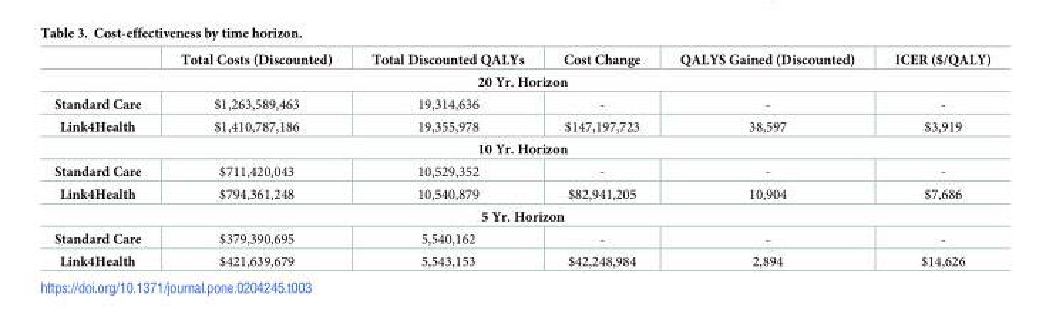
<table><thead><tr><td></td><td>Total Costs (Discounted)</td><td>Total Discounted QALYs</td><td>Cost Change</td><td>QALYS Gained (Discounted)</td><td>ICER ($/QALY)</td></tr></thead><tbody><tr><td colspan="6">20 Yr. Horizon</td></tr><tr><td>Standard Care</td><td>$1,263,589,463</td><td>19,314,636</td><td>-</td><td>-</td><td>-</td></tr><tr><td>Link4Health</td><td>$1,410,787,186</td><td>19,355,978</td><td>$147,197,723</td><td>38,597</td><td>$3,919</td></tr><tr><td colspan="6">10 Yr. Horizon</td></tr><tr><td>Standard Care</td><td>$711,420,043</td><td>10,529,352</td><td>-</td><td>-</td><td>-</td></tr><tr><td>Link4Health</td><td>$794,361,248</td><td>10,540,879</td><td>$82,941,205</td><td>10,904</td><td>$7,686</td></tr><tr><td colspan="6">5 Yr. Horizon</td></tr><tr><td>Standard Care</td><td>$379,390,695</td><td>5,540,162</td><td>-</td><td>-</td><td>-</td></tr><tr><td>Link4Health</td><td>$421,639,679</td><td>5,543,153</td><td>$42,248,984</td><td>2,894</td><td>$14,626</td></tr></tbody></table>